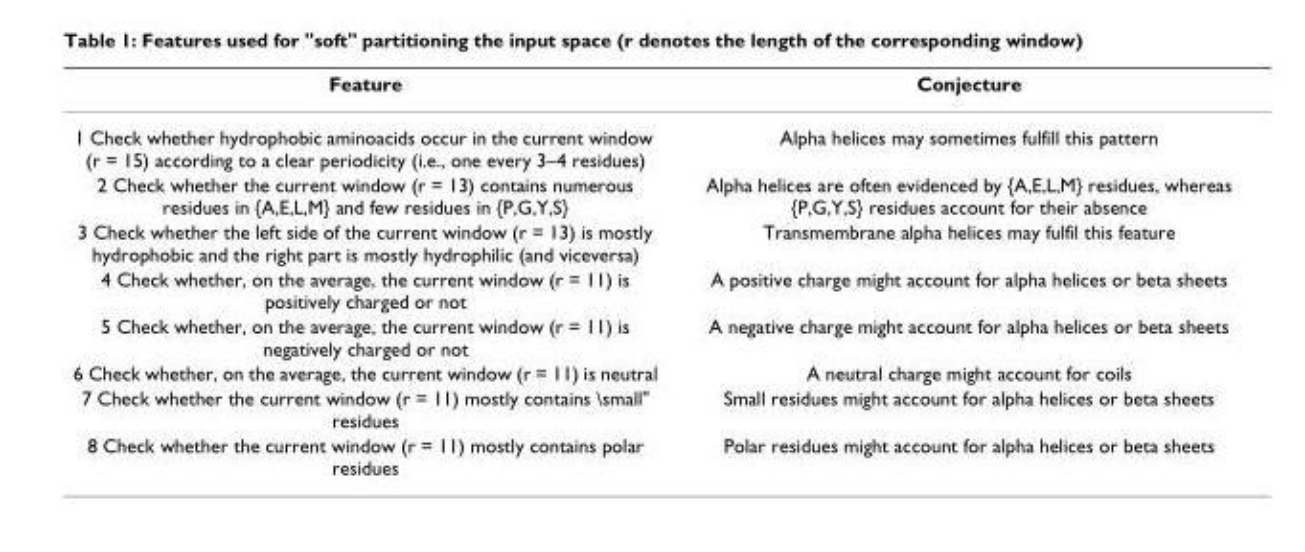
<table><thead><tr><td>Feature</td><td>Conjecture</td></tr></thead><tbody><tr><td>1 Check whether hydrophobic aminoacids occur in the current window (r = 15) according to a clear periodicity (i.e., one every 3–4 residues)</td><td>Alpha helices may sometimes fulfill this pattern</td></tr><tr><td>2 Check whether the current window (r = 13) contains numerous residues in {A,E,L,M} and few residues in {P,G,Y,S}</td><td>Alpha helices are often evidenced by {A,E,L,M} residues, whereas {P,G,Y,S} residues account for their absence</td></tr><tr><td>3 Check whether the left side of the current window (r = 13) is mostly hydrophobic and the right part is mostly hydrophilic (and viceversa)</td><td>Transmembrane alpha helices may fulfil this feature</td></tr><tr><td>4 Check whether, on the average, the current window (r = 11) is positively charged or not</td><td>A positive charge might account for alpha helices or beta sheets</td></tr><tr><td>5 Check whether, on the average, the current window (r = 11) is negatively charged or not</td><td>A negative charge might account for alpha helices or beta sheets</td></tr><tr><td>6 Check whether, on the average, the current window (r = 11) is neutral</td><td>A neutral charge might account for coils</td></tr><tr><td>7 Check whether the current window (r = 11) mostly contains \small&quot; residues</td><td>Small residues might account for alpha helices or beta sheets</td></tr><tr><td>8 Check whether the current window (r = 11) mostly contains polar residues</td><td>Polar residues might account for alpha helices or beta sheets</td></tr></tbody></table>